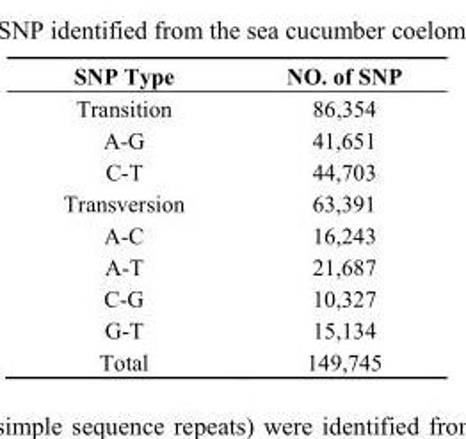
<table><thead><tr><td>SNP Type</td><td>NO. of SNP</td></tr></thead><tbody><tr><td>Transition</td><td>86,354</td></tr><tr><td>A-G</td><td>41,651</td></tr><tr><td>C-T</td><td>44,703</td></tr><tr><td>Transversion</td><td>63,391</td></tr><tr><td>A-C</td><td>16,243</td></tr><tr><td>A-T</td><td>21,687</td></tr><tr><td>C-G</td><td>10,327</td></tr><tr><td>G-T</td><td>15,134</td></tr><tr><td>Total</td><td>149,745</td></tr></tbody></table>